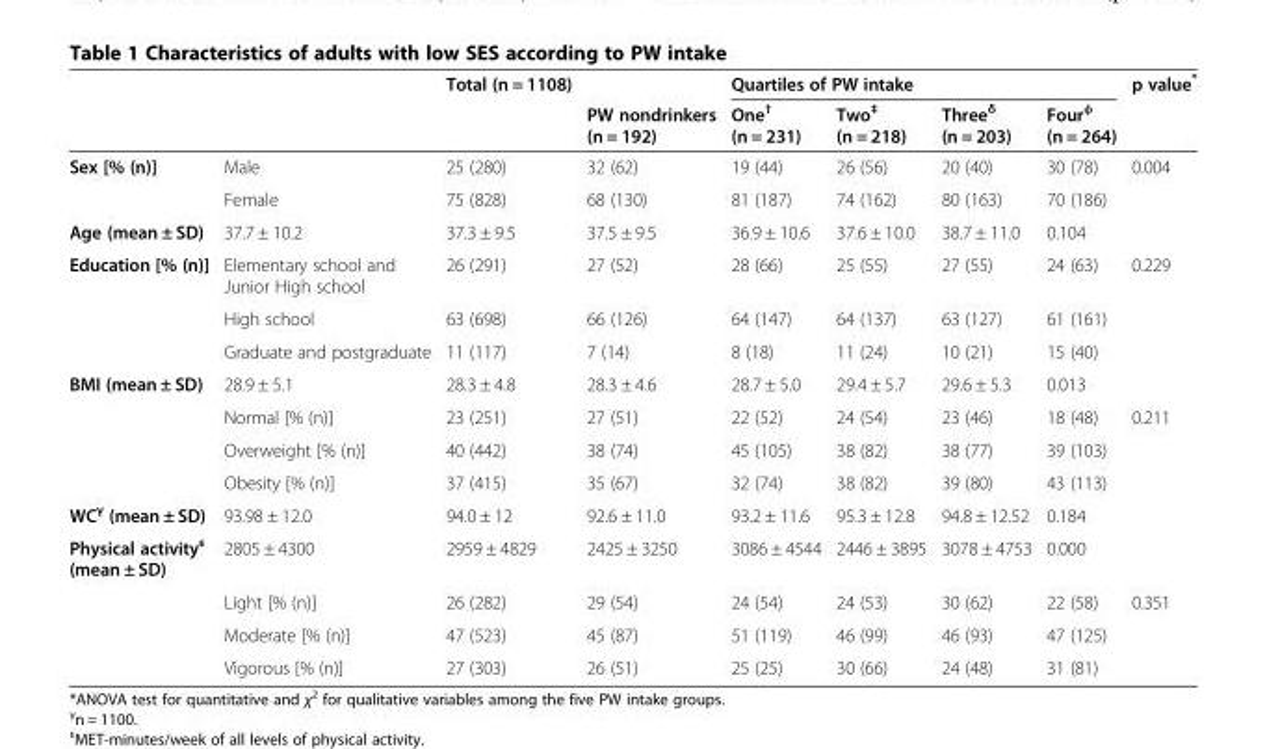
<table><thead><tr><td rowspan="2"></td><td rowspan="2"></td><td rowspan="2">Total (n = 1108)</td><td rowspan="2">PW nondrinkers (n = 192)</td><td colspan="4">Quartiles of PW intake</td><td rowspan="2">p value*</td></tr><tr><td>One<sup>†</sup> (n = 231)</td><td>Two<sup>‡</sup> (n = 218)</td><td>Three<sup>δ</sup> (n = 203)</td><td>Four<sup>ϕ</sup> (n = 264)</td></tr></thead><tbody><tr><td rowspan="2">Sex [% (n)]</td><td>Male</td><td>25 (280)</td><td>32 (62)</td><td>19 (44)</td><td>26 (56)</td><td>20 (40)</td><td>30 (78)</td><td>0.004</td></tr><tr><td>Female</td><td>75 (828)</td><td>68 (130)</td><td>81 (187)</td><td>74 (162)</td><td>80 (163)</td><td>70 (186)</td><td></td></tr><tr><td>Age (mean ± SD)</td><td>37.7 ± 10.2</td><td>37.3 ± 9.5</td><td>37.5 ± 9.5</td><td>36.9 ± 10.6</td><td>37.6 ± 10.0</td><td>38.7 ± 11.0</td><td>0.104</td><td></td></tr><tr><td rowspan="3">Education [% (n)]</td><td>Elementary school and Junior High school</td><td>26 (291)</td><td>27 (52)</td><td>28 (66)</td><td>25 (55)</td><td>27 (55)</td><td>24 (63)</td><td>0.229</td></tr><tr><td>High school</td><td>63 (698)</td><td>66 (126)</td><td>64 (147)</td><td>64 (137)</td><td>63 (127)</td><td>61 (161)</td><td></td></tr><tr><td>Graduate and postgraduate</td><td>11 (117)</td><td>7 (14)</td><td>8 (18)</td><td>11 (24)</td><td>10 (21)</td><td>15 (40)</td><td></td></tr><tr><td rowspan="4">BMI (mean ± SD)</td><td>28.9 ± 5.1</td><td>28.3 ± 4.8</td><td>28.3 ± 4.6</td><td>28.7 ± 5.0</td><td>29.4 ± 5.7</td><td>29.6 ± 5.3</td><td>0.013</td><td></td></tr><tr><td>Normal [% (n)]</td><td>23 (251)</td><td>27 (51)</td><td>22 (52)</td><td>24 (54)</td><td>23 (46)</td><td>18 (48)</td><td>0.211</td></tr><tr><td>Overweight [% (n)]</td><td>40 (442)</td><td>38 (74)</td><td>45 (105)</td><td>38 (82)</td><td>38 (77)</td><td>39 (103)</td><td></td></tr><tr><td>Obesity [% (n)]</td><td>37 (415)</td><td>35 (67)</td><td>32 (74)</td><td>38 (82)</td><td>39 (80)</td><td>43 (113)</td><td></td></tr><tr><td>WC<sup>γ</sup> (mean ± SD)</td><td>93.98 ± 12.0</td><td>94.0 ± 12</td><td>92.6 ± 11.0</td><td>93.2 ± 11.6</td><td>95.3 ± 12.8</td><td>94.8 ± 12.52</td><td>0.184</td><td></td></tr><tr><td rowspan="4">Physical activity<sup>ε</sup> (mean ± SD)</td><td>2805 ± 4300</td><td>2959 ± 4829</td><td>2425 ± 3250</td><td>3086 ± 4544</td><td>2446 ± 3895</td><td>3078 ± 4753</td><td>0.000</td><td></td></tr><tr><td>Light [% (n)]</td><td>26 (282)</td><td>29 (54)</td><td>24 (54)</td><td>24 (53)</td><td>30 (62)</td><td>22 (58)</td><td>0.351</td></tr><tr><td>Moderate [% (n)]</td><td>47 (523)</td><td>45 (87)</td><td>51 (119)</td><td>46 (99)</td><td>46 (93)</td><td>47 (125)</td><td></td></tr><tr><td>Vigorous [% (n)]</td><td>27 (303)</td><td>26 (51)</td><td>25 (25)</td><td>30 (66)</td><td>24 (48)</td><td>31 (81)</td><td></td></tr></tbody></table>